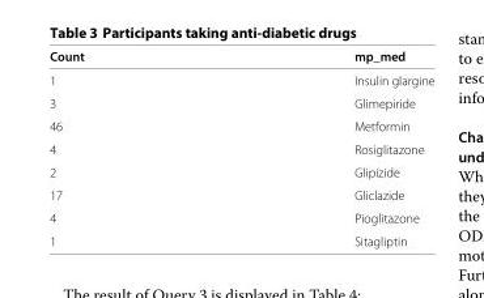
<table><thead><tr><td>Count</td><td>mp_med</td></tr></thead><tbody><tr><td>1</td><td>Insulin glargine</td></tr><tr><td>3</td><td>Glimepiride</td></tr><tr><td>46</td><td>Metformin</td></tr><tr><td>4</td><td>Rosiglitazone</td></tr><tr><td>2</td><td>Glipizide</td></tr><tr><td>17</td><td>Gliclazide</td></tr><tr><td>4</td><td>Pioglitazone</td></tr><tr><td>1</td><td>Sitagliptin</td></tr></tbody></table>